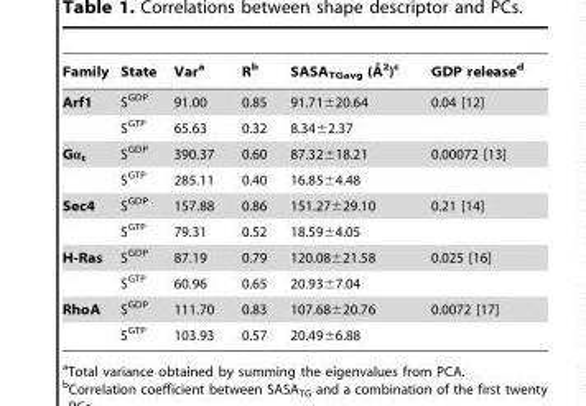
<table><thead><tr><td>Family</td><td>State</td><td>Var<sup>a</sup></td><td>R<sup>b</sup></td><td>SASATGavg (A˚ 2)c</td><td>GDP release<sup>d</sup></td></tr></thead><tbody><tr><td rowspan="2">Arf1</td><td>S<sup>GDP</sup></td><td>91.00</td><td>0.85</td><td>91.71±20.64</td><td>0.04 [12]</td></tr><tr><td>S<sup>GTP</sup></td><td>65.63</td><td>0.32</td><td>8.34±2.37</td><td></td></tr><tr><td rowspan="2">Gα<sub>t</sub></td><td>S<sup>GDP</sup></td><td>390.37</td><td>0.60</td><td>87.32±18.21</td><td>0.00072 [13]</td></tr><tr><td>S<sup>GTP</sup></td><td>285.11</td><td>0.40</td><td>16.85±4.48</td><td></td></tr><tr><td rowspan="2">Sec4</td><td>S<sup>GDP</sup></td><td>157.88</td><td>0.86</td><td>151.27±29.10</td><td>0.21 [14]</td></tr><tr><td>S<sup>GTP</sup></td><td>79.31</td><td>0.52</td><td>18.59±4.05</td><td></td></tr><tr><td rowspan="2">H-Ras</td><td>S<sup>GDP</sup></td><td>87.19</td><td>0.79</td><td>120.08±21.58</td><td>0.025 [16]</td></tr><tr><td>S<sup>GTP</sup></td><td>60.96</td><td>0.65</td><td>20.93±7.04</td><td></td></tr><tr><td rowspan="2">RhoA</td><td>S<sup>GDP</sup></td><td>111.70</td><td>0.83</td><td>107.68±20.76</td><td>0.0072 [17]</td></tr><tr><td>S<sup>GTP</sup></td><td>103.93</td><td>0.57</td><td>20.49±6.88</td><td></td></tr></tbody></table>